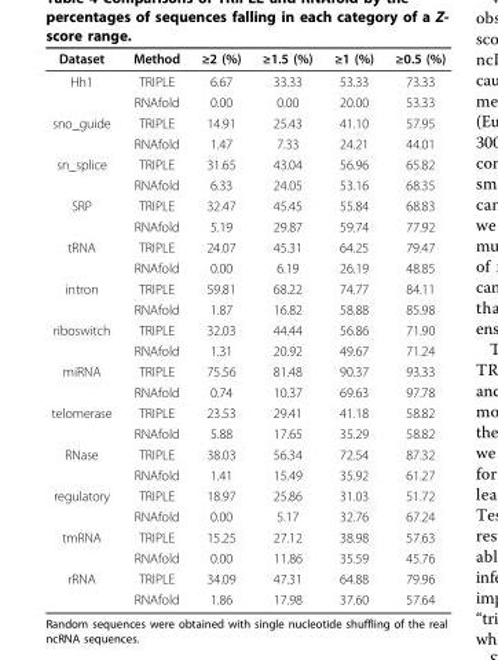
<table><thead><tr><td>Dataset</td><td>Method</td><td>≥2 (%)</td><td>≥1.5 (%)</td><td>≥1 (%)</td><td>≥0.5 (%)</td></tr></thead><tbody><tr><td rowspan="2">Hh1</td><td>TRIPLE</td><td>6.67</td><td>33.33</td><td>53.33</td><td>73.33</td></tr><tr><td>RNAfold</td><td>0.00</td><td>0.00</td><td>20.00</td><td>53.33</td></tr><tr><td rowspan="2">sno_guide</td><td>TRIPLE</td><td>14.91</td><td>25.43</td><td>41.10</td><td>57.95</td></tr><tr><td>RNAfold</td><td>1.47</td><td>7.33</td><td>24.21</td><td>44.01</td></tr><tr><td rowspan="2">sn_splice</td><td>TRIPLE</td><td>31.65</td><td>43.04</td><td>56.96</td><td>65.82</td></tr><tr><td>RNAfold</td><td>6.33</td><td>24.05</td><td>53.16</td><td>68.35</td></tr><tr><td rowspan="2">SRP</td><td>TRIPLE</td><td>32.47</td><td>45.45</td><td>55.84</td><td>68.83</td></tr><tr><td>RNAfold</td><td>5.19</td><td>29.87</td><td>59.74</td><td>77.92</td></tr><tr><td rowspan="2">tRNA</td><td>TRIPLE</td><td>24.07</td><td>45.31</td><td>64.25</td><td>79.47</td></tr><tr><td>RNAfold</td><td>0.00</td><td>6.19</td><td>26.19</td><td>48.85</td></tr><tr><td rowspan="2">intron</td><td>TRIPLE</td><td>59.81</td><td>68.22</td><td>74.77</td><td>84.11</td></tr><tr><td>RNAfold</td><td>1.87</td><td>16.82</td><td>58.88</td><td>85.98</td></tr><tr><td rowspan="2">riboswitch</td><td>TRIPLE</td><td>32.03</td><td>44.44</td><td>56.86</td><td>71.90</td></tr><tr><td>RNAfold</td><td>1.31</td><td>20.92</td><td>49.67</td><td>71.24</td></tr><tr><td rowspan="2">miRNA</td><td>TRIPLE</td><td>75.56</td><td>81.48</td><td>90.37</td><td>93.33</td></tr><tr><td>RNAfold</td><td>0.74</td><td>10.37</td><td>69.63</td><td>97.78</td></tr><tr><td rowspan="2">telomerase</td><td>TRIPLE</td><td>23.53</td><td>29.41</td><td>41.18</td><td>58.82</td></tr><tr><td>RNAfold</td><td>5.88</td><td>17.65</td><td>35.29</td><td>58.82</td></tr><tr><td rowspan="2">RNase</td><td>TRIPLE</td><td>38.03</td><td>56.34</td><td>72.54</td><td>87.32</td></tr><tr><td>RNAfold</td><td>1.41</td><td>15.49</td><td>35.92</td><td>61.27</td></tr><tr><td rowspan="2">regulatory</td><td>TRIPLE</td><td>18.97</td><td>25.86</td><td>31.03</td><td>51.72</td></tr><tr><td>RNAfold</td><td>0.00</td><td>5.17</td><td>32.76</td><td>67.24</td></tr><tr><td rowspan="2">tmRNA</td><td>TRIPLE</td><td>15.25</td><td>27.12</td><td>38.98</td><td>57.63</td></tr><tr><td>RNAfold</td><td>0.00</td><td>11.86</td><td>35.59</td><td>45.76</td></tr><tr><td rowspan="2">rRNA</td><td>TRIPLE</td><td>34.09</td><td>47.31</td><td>64.88</td><td>79.96</td></tr><tr><td>RNAfold</td><td>1.86</td><td>17.98</td><td>37.60</td><td>57.64</td></tr></tbody></table>